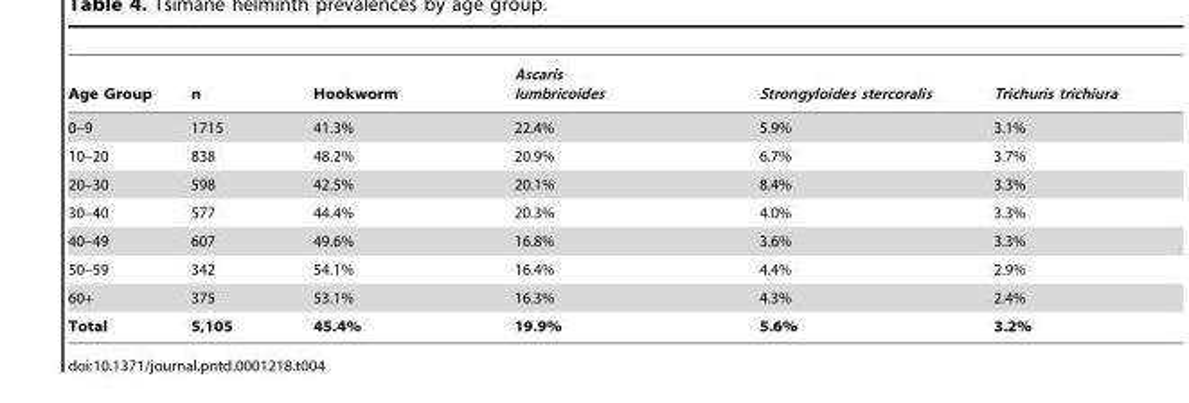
<table><thead><tr><td>Age Group</td><td>n</td><td>Hookworm</td><td>Ascaris lumbricoides</td><td>Strongyloides stercoralis</td><td>Trichuris trichiura</td></tr></thead><tbody><tr><td>0–9</td><td>1715</td><td>41.3%</td><td>22.4%</td><td>5.9%</td><td>3.1%</td></tr><tr><td>10–20</td><td>838</td><td>48.2%</td><td>20.9%</td><td>6.7%</td><td>3.7%</td></tr><tr><td>20–30</td><td>598</td><td>42.5%</td><td>20.1%</td><td>8.4%</td><td>3.3%</td></tr><tr><td>30–40</td><td>577</td><td>44.4%</td><td>20.3%</td><td>4.0%</td><td>3.3%</td></tr><tr><td>40–49</td><td>607</td><td>49.6%</td><td>16.8%</td><td>3.6%</td><td>3.3%</td></tr><tr><td>50–59</td><td>342</td><td>54.1%</td><td>16.4%</td><td>4.4%</td><td>2.9%</td></tr><tr><td>60+</td><td>375</td><td>53.1%</td><td>16.3%</td><td>4.3%</td><td>2.4%</td></tr><tr><td>Total</td><td>5,105</td><td>45.4%</td><td>19.9%</td><td>5.6%</td><td>3.2%</td></tr></tbody></table>